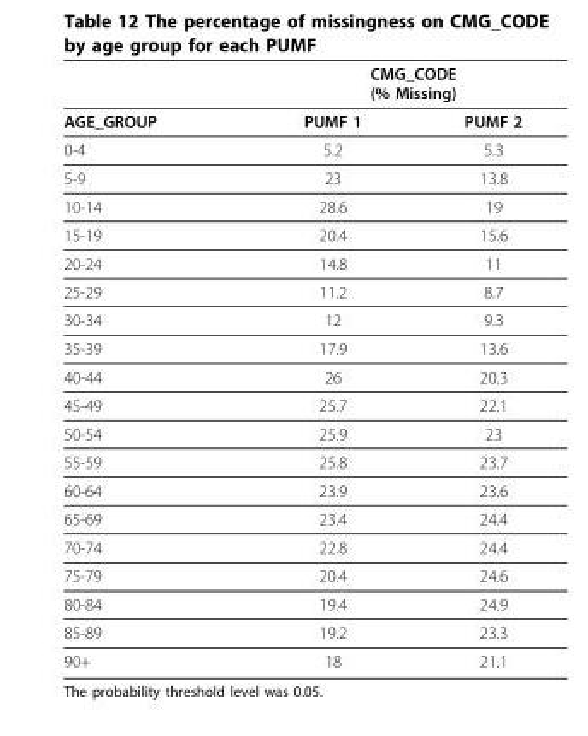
<table><thead><tr><td rowspan="2">AGE_GROUP</td><td colspan="2">CMG_CODE (% Missing)</td></tr><tr><td>PUMF 1</td><td>PUMF 2</td></tr></thead><tbody><tr><td>0-4</td><td>5.2</td><td>5.3</td></tr><tr><td>5-9</td><td>23</td><td>13.8</td></tr><tr><td>10-14</td><td>28.6</td><td>19</td></tr><tr><td>15-19</td><td>20.4</td><td>15.6</td></tr><tr><td>20-24</td><td>14.8</td><td>11</td></tr><tr><td>25-29</td><td>11.2</td><td>8.7</td></tr><tr><td>30-34</td><td>12</td><td>9.3</td></tr><tr><td>35-39</td><td>17.9</td><td>13.6</td></tr><tr><td>40-44</td><td>26</td><td>20.3</td></tr><tr><td>45-49</td><td>25.7</td><td>22.1</td></tr><tr><td>50-54</td><td>25.9</td><td>23</td></tr><tr><td>55-59</td><td>25.8</td><td>23.7</td></tr><tr><td>60-64</td><td>23.9</td><td>23.6</td></tr><tr><td>65-69</td><td>23.4</td><td>24.4</td></tr><tr><td>70-74</td><td>22.8</td><td>24.4</td></tr><tr><td>75-79</td><td>20.4</td><td>24.6</td></tr><tr><td>80-84</td><td>19.4</td><td>24.9</td></tr><tr><td>85-89</td><td>19.2</td><td>23.3</td></tr><tr><td>90+</td><td>18</td><td>21.1</td></tr></tbody></table>